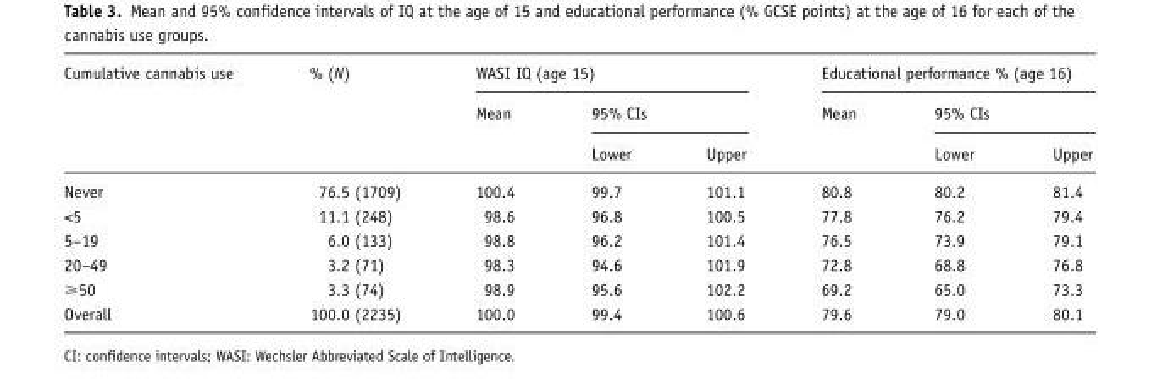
<table><thead><tr><td rowspan="3">Cumulative cannabis use</td><td rowspan="3">% (N)</td><td colspan="3">WASI IQ (age 15)</td><td colspan="3">Educational performance % (age 16)</td></tr><tr><td rowspan="2">Mean</td><td colspan="2">95% CIs</td><td rowspan="2">Mean</td><td colspan="2">95% CIs</td></tr><tr><td>Lower</td><td>Upper</td><td>Lower</td><td>Upper</td></tr></thead><tbody><tr><td>Never</td><td>76.5 (1709)</td><td>100.4</td><td>99.7</td><td>101.1</td><td>80.8</td><td>80.2</td><td>81.4</td></tr><tr><td>&lt;5</td><td>11.1 (248)</td><td>98.6</td><td>96.8</td><td>100.5</td><td>77.8</td><td>76.2</td><td>79.4</td></tr><tr><td>5–19</td><td>6.0 (133)</td><td>98.8</td><td>96.2</td><td>101.4</td><td>76.5</td><td>73.9</td><td>79.1</td></tr><tr><td>20–49</td><td>3.2 (71)</td><td>98.3</td><td>94.6</td><td>101.9</td><td>72.8</td><td>68.8</td><td>76.8</td></tr><tr><td>⩾50</td><td>3.3 (74)</td><td>98.9</td><td>95.6</td><td>102.2</td><td>69.2</td><td>65.0</td><td>73.3</td></tr><tr><td>Overall</td><td>100.0 (2235)</td><td>100.0</td><td>99.4</td><td>100.6</td><td>79.6</td><td>79.0</td><td>80.1</td></tr></tbody></table>